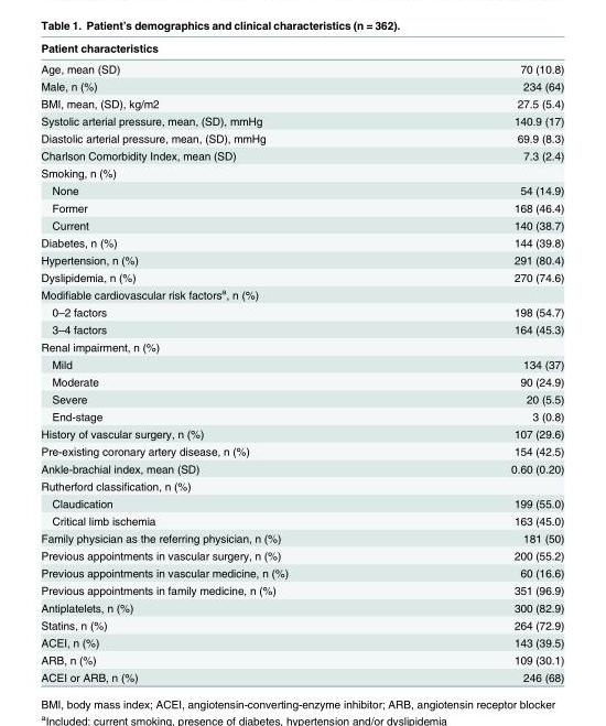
<table><thead><tr><td>Patient characteristics</td><td></td></tr></thead><tbody><tr><td>Age, mean (SD)</td><td>70 (10.8)</td></tr><tr><td>Male, n (%)</td><td>234 (64)</td></tr><tr><td>BMI, mean, (SD), kg/m2</td><td>27.5 (5.4)</td></tr><tr><td>Systolic arterial pressure, mean, (SD), mmHg</td><td>140.9 (17)</td></tr><tr><td>Diastolic arterial pressure, mean, (SD), mmHg</td><td>69.9 (8.3)</td></tr><tr><td>Charlson Comorbidity Index, mean (SD)</td><td>7.3 (2.4)</td></tr><tr><td colspan="2">Smoking, n (%)</td></tr><tr><td>None</td><td>54 (14.9)</td></tr><tr><td>Former</td><td>168 (46.4)</td></tr><tr><td>Current</td><td>140 (38.7)</td></tr><tr><td>Diabetes, n (%)</td><td>144 (39.8)</td></tr><tr><td>Hypertension, n (%)</td><td>291 (80.4)</td></tr><tr><td>Dyslipidemia, n (%)</td><td>270 (74.6)</td></tr><tr><td colspan="2">Modifiable cardiovascular risk factors<sup>a</sup>, n (%)</td></tr><tr><td>0–2 factors</td><td>198 (54.7)</td></tr><tr><td>3–4 factors</td><td>164 (45.3)</td></tr><tr><td colspan="2">Renal impairment, n (%)</td></tr><tr><td>Mild</td><td>134 (37)</td></tr><tr><td>Moderate</td><td>90 (24.9)</td></tr><tr><td>Severe</td><td>20 (5.5)</td></tr><tr><td>End-stage</td><td>3 (0.8)</td></tr><tr><td>History of vascular surgery, n (%)</td><td>107 (29.6)</td></tr><tr><td>Pre-existing coronary artery disease, n (%)</td><td>154 (42.5)</td></tr><tr><td>Ankle-brachial index, mean (SD)</td><td>0.60 (0.20)</td></tr><tr><td colspan="2">Rutherford classification, n (%)</td></tr><tr><td>Claudication</td><td>199 (55.0)</td></tr><tr><td>Critical limb ischemia</td><td>163 (45.0)</td></tr><tr><td>Family physician as the referring physician, n (%)</td><td>181 (50)</td></tr><tr><td>Previous appointments in vascular surgery, n (%)</td><td>200 (55.2)</td></tr><tr><td>Previous appointments in vascular medicine, n (%)</td><td>60 (16.6)</td></tr><tr><td>Previous appointments in family medicine, n (%)</td><td>351 (96.9)</td></tr><tr><td>Antiplatelets, n (%)</td><td>300 (82.9)</td></tr><tr><td>Statins, n (%)</td><td>264 (72.9)</td></tr><tr><td>ACEI, n (%)</td><td>143 (39.5)</td></tr><tr><td>ARB, n (%)</td><td>109 (30.1)</td></tr><tr><td>ACEI or ARB, n (%)</td><td>246 (68)</td></tr></tbody></table>